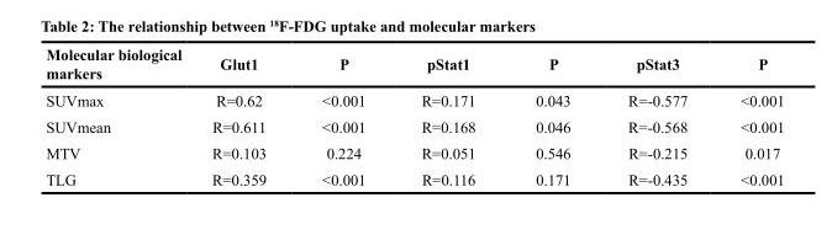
<table><thead><tr><td>Molecular biological markers</td><td>Glut1</td><td>P</td><td>pStat1</td><td>P</td><td>pStat3</td><td>P</td></tr></thead><tbody><tr><td>SUVmax</td><td>R=0.62</td><td>&lt;0.001</td><td>R=0.171</td><td>0.043</td><td>R=-0.577</td><td>&lt;0.001</td></tr><tr><td>SUVmean</td><td>R=0.611</td><td>&lt;0.001</td><td>R=0.168</td><td>0.046</td><td>R=-0.568</td><td>&lt;0.001</td></tr><tr><td>MTV</td><td>R=0.103</td><td>0.224</td><td>R=0.051</td><td>0.546</td><td>R=-0.215</td><td>0.017</td></tr><tr><td>TLG</td><td>R=0.359</td><td>&lt;0.001</td><td>R=0.116</td><td>0.171</td><td>R=-0.435</td><td>&lt;0.001</td></tr></tbody></table>